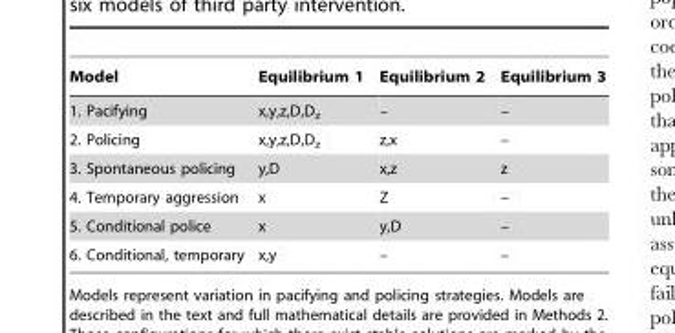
<table><thead><tr><td>Model</td><td>Equilibrium 1</td><td>Equilibrium 2</td><td>Equilibrium 3</td></tr></thead><tbody><tr><td>1. Pacifying</td><td>x,y,z,D,D<sub>z</sub></td><td>–</td><td>–</td></tr><tr><td>2. Policing</td><td>x,y,z,D,D<sub>z</sub></td><td>z,x</td><td>–</td></tr><tr><td>3. Spontaneous policing</td><td>y,D</td><td>x,z</td><td>z</td></tr><tr><td>4. Temporary aggression</td><td>x</td><td>Z</td><td>–</td></tr><tr><td>5. Conditional police</td><td>x</td><td>y,D</td><td>–</td></tr><tr><td>6. Conditional, temporary</td><td>x,y</td><td>–</td><td>–</td></tr></tbody></table>